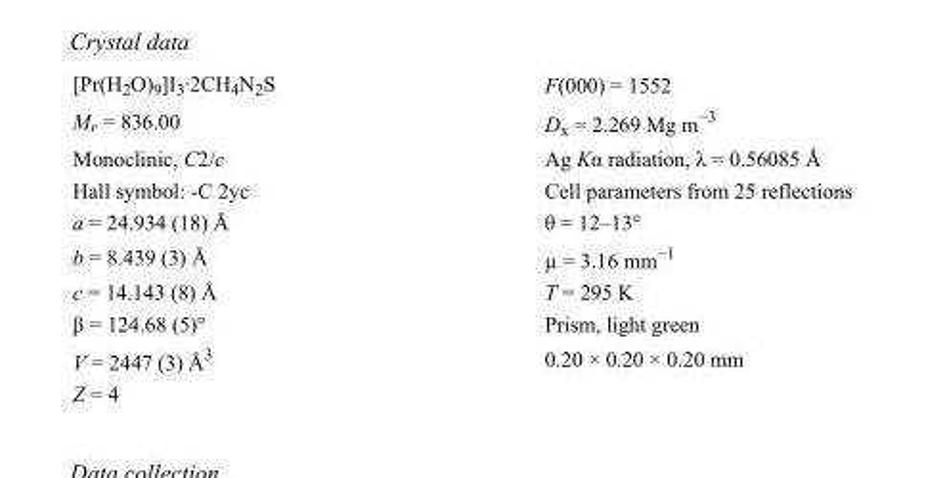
<table><tbody><tr><td>[Pr(H<sub>2</sub>O)<sub>9</sub>]I<sub>3</sub>·2CH<sub>4</sub>N<sub>2</sub>S</td><td>F(000) = 1552</td></tr><tr><td>M<sub>r</sub> = 836.00</td><td>D<sub>x</sub> = 2.269 Mg m<sup>−3</sup></td></tr><tr><td>Monoclinic, C2/c</td><td>Ag Kα radiation, λ = 0.56085 Å</td></tr><tr><td>Hall symbol: -C 2yc</td><td>Cell parameters from 25 reflections</td></tr><tr><td>a = 24.934 (18) Å</td><td>θ = 12–13°</td></tr><tr><td>b = 8.439 (3) Å</td><td>µ = 3.16 mm<sup>−1</sup></td></tr><tr><td>c = 14.143 (8) Å</td><td>T = 295 K</td></tr><tr><td>β = 124.68 (5)°</td><td>Prism, light green</td></tr><tr><td>V = 2447 (3) Å<sup>3</sup></td><td>0.20 × 0.20 × 0.20 mm</td></tr><tr><td>Z = 4</td><td></td></tr></tbody></table>